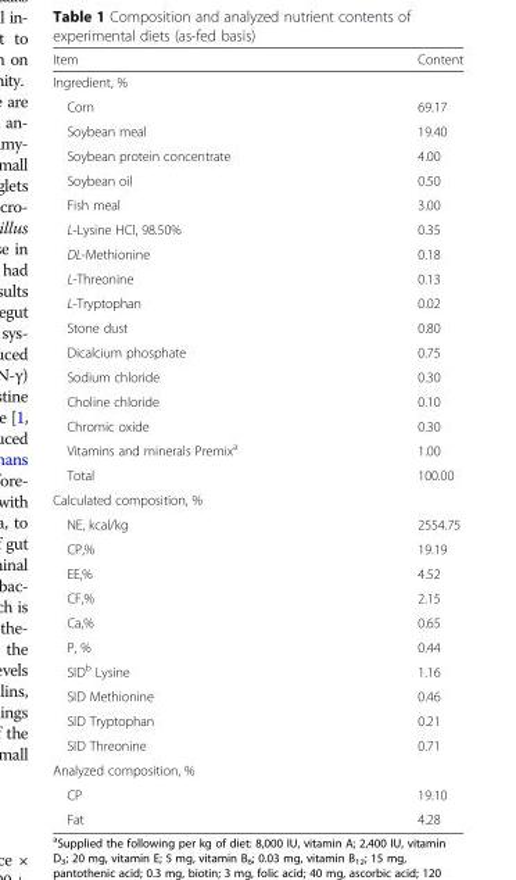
<table><thead><tr><td>Item</td><td>Content</td></tr></thead><tbody><tr><td colspan="2">Ingredient, %</td></tr><tr><td>Corn</td><td>69.17</td></tr><tr><td>Soybean meal</td><td>19.40</td></tr><tr><td>Soybean protein concentrate</td><td>4.00</td></tr><tr><td>Soybean oil</td><td>0.50</td></tr><tr><td>Fish meal</td><td>3.00</td></tr><tr><td>L-Lysine HCl, 98.50%</td><td>0.35</td></tr><tr><td>DL-Methionine</td><td>0.18</td></tr><tr><td>L-Threonine</td><td>0.13</td></tr><tr><td>L-Tryptophan</td><td>0.02</td></tr><tr><td>Stone dust</td><td>0.80</td></tr><tr><td>Dicalcium phosphate</td><td>0.75</td></tr><tr><td>Sodium chloride</td><td>0.30</td></tr><tr><td>Choline chloride</td><td>0.10</td></tr><tr><td>Chromic oxide</td><td>0.30</td></tr><tr><td>Vitamins and minerals Premix<sup>a</sup></td><td>1.00</td></tr><tr><td>Total</td><td>100.00</td></tr><tr><td colspan="2">Calculated composition, %</td></tr><tr><td>NE, kcal/kg</td><td>2554.75</td></tr><tr><td>CP,%</td><td>19.19</td></tr><tr><td>EE,%</td><td>4.52</td></tr><tr><td>CF,%</td><td>2.15</td></tr><tr><td>Ca,%</td><td>0.65</td></tr><tr><td>P, %</td><td>0.44</td></tr><tr><td>SID<sup>b</sup> Lysine</td><td>1.16</td></tr><tr><td>SID Methionine</td><td>0.46</td></tr><tr><td>SID Tryptophan</td><td>0.21</td></tr><tr><td>SID Threonine</td><td>0.71</td></tr><tr><td colspan="2">Analyzed composition, %</td></tr><tr><td>CP</td><td>19.10</td></tr><tr><td>Fat</td><td>4.28</td></tr></tbody></table>